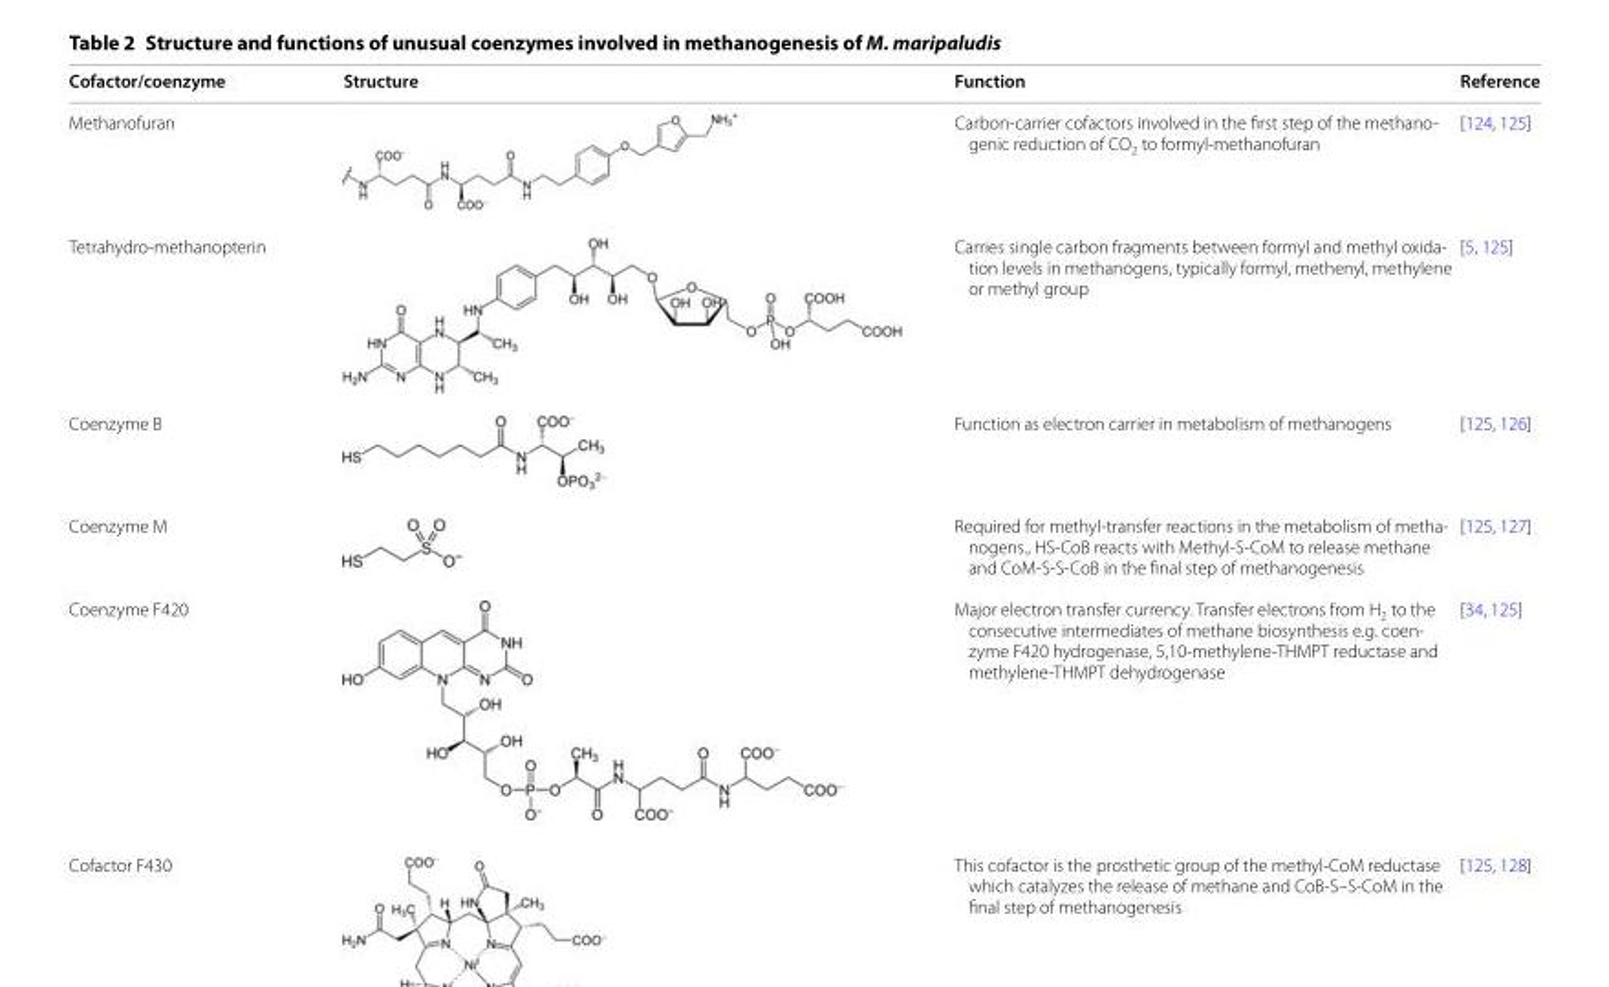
<table><thead><tr><td>Cofactor/coenzyme</td><td>Structure</td><td>Function</td><td>Reference</td></tr></thead><tbody><tr><td>Methanofuran</td><td></td><td>Carbon-carrier cofactors involved in the first step of the methano- genic reduction of CO2 to formyl-methanofuran</td><td>[124, 125]</td></tr><tr><td>Tetrahydro-methanopterin</td><td></td><td>Carries single carbon fragments between formyl and methyl oxida- tion levels in methanogens, typically formyl, methenyl, methylene or methyl group</td><td>[5, 125]</td></tr><tr><td>Coenzyme B</td><td></td><td>Function as electron carrier in metabolism of methanogens</td><td>[125, 126]</td></tr><tr><td>Coenzyme M</td><td></td><td>Required for methyl-transfer reactions in the metabolism of metha- nogens., HS-CoB reacts with Methyl-S-CoM to release methane and CoM-S-S-CoB in the final step of methanogenesis</td><td>[125, 127]</td></tr><tr><td>Coenzyme F420</td><td></td><td>Major electron transfer currency. Transfer electrons from H2 to the consecutive intermediates of methane biosynthesis e.g. coen- zyme F420 hydrogenase, 5,10-methylene-THMPT reductase and methylene-THMPT dehydrogenase</td><td>[34, 125]</td></tr><tr><td>Cofactor F430</td><td></td><td>This cofactor is the prosthetic group of the methyl-CoM reductase which catalyzes the release of methane and CoB-S–S-CoM in the final step of methanogenesis</td><td>[125, 128]</td></tr></tbody></table>